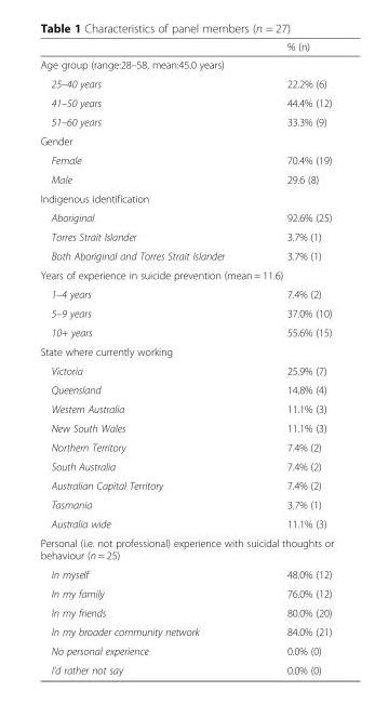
<table><thead><tr><td></td><td>% (n)</td></tr></thead><tbody><tr><td colspan="2">Age group (range:28–58, mean:45.0 years)</td></tr><tr><td>25–40 years</td><td>22.2% (6)</td></tr><tr><td>41–50 years</td><td>44.4% (12)</td></tr><tr><td>51–60 years</td><td>33.3% (9)</td></tr><tr><td colspan="2">Gender</td></tr><tr><td>Female</td><td>70.4% (19)</td></tr><tr><td>Male</td><td>29.6 (8)</td></tr><tr><td colspan="2">Indigenous identification</td></tr><tr><td>Aboriginal</td><td>92.6% (25)</td></tr><tr><td>Torres Strait Islander</td><td>3.7% (1)</td></tr><tr><td>Both Aboriginal and Torres Strait Islander</td><td>3.7% (1)</td></tr><tr><td colspan="2">Years of experience in suicide prevention (mean = 11.6)</td></tr><tr><td>1–4 years</td><td>7.4% (2)</td></tr><tr><td>5–9 years</td><td>37.0% (10)</td></tr><tr><td>10+ years</td><td>55.6% (15)</td></tr><tr><td colspan="2">State where currently working</td></tr><tr><td>Victoria</td><td>25.9% (7)</td></tr><tr><td>Queensland</td><td>14.8% (4)</td></tr><tr><td>Western Australia</td><td>11.1% (3)</td></tr><tr><td>New South Wales</td><td>11.1% (3)</td></tr><tr><td>Northern Territory</td><td>7.4% (2)</td></tr><tr><td>South Australia</td><td>7.4% (2)</td></tr><tr><td>Australian Capital Territory</td><td>7.4% (2)</td></tr><tr><td>Tasmania</td><td>3.7% (1)</td></tr><tr><td>Australia wide</td><td>11.1% (3)</td></tr><tr><td colspan="2">Personal (i.e. not professional) experience with suicidal thoughts or behaviour (n = 25)</td></tr><tr><td>In myself</td><td>48.0% (12)</td></tr><tr><td>In my family</td><td>76.0% (12)</td></tr><tr><td>In my friends</td><td>80.0% (20)</td></tr><tr><td>In my broader community network</td><td>84.0% (21)</td></tr><tr><td>No personal experience</td><td>0.0% (0)</td></tr><tr><td>I’d rather not say</td><td>0.0% (0)</td></tr></tbody></table>